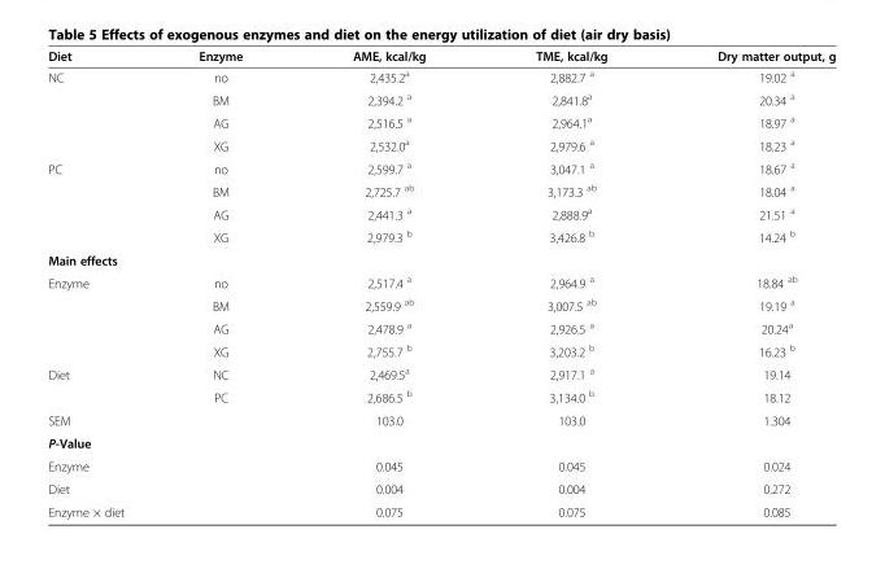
<table><thead><tr><td>Diet</td><td>Enzyme</td><td>AME, kcal/kg</td><td>TME, kcal/kg</td><td>Dry matter output, g</td></tr></thead><tbody><tr><td rowspan="4">NC</td><td>no</td><td>2,435.2<sup>a</sup></td><td>2,882.7 <sup>a</sup></td><td>19.02 <sup>a</sup></td></tr><tr><td>BM</td><td>2,394.2 <sup>a</sup></td><td>2,841.8<sup>a</sup></td><td>20.34 <sup>a</sup></td></tr><tr><td>AG</td><td>2,516.5 <sup>a</sup></td><td>2,964.1<sup>a</sup></td><td>18.97 <sup>a</sup></td></tr><tr><td>XG</td><td>2,532.0<sup>a</sup></td><td>2,979.6 <sup>a</sup></td><td>18.23 <sup>a</sup></td></tr><tr><td rowspan="4">PC</td><td>no</td><td>2,599.7 <sup>a</sup></td><td>3,047.1 <sup>a</sup></td><td>18.67 <sup>a</sup></td></tr><tr><td>BM</td><td>2,725.7 <sup>ab</sup></td><td>3,173.3 <sup>ab</sup></td><td>18.04 <sup>a</sup></td></tr><tr><td>AG</td><td>2,441.3 <sup>a</sup></td><td>2,888.9<sup>a</sup></td><td>21.51 <sup>a</sup></td></tr><tr><td>XG</td><td>2,979.3 <sup>b</sup></td><td>3,426.8 <sup>b</sup></td><td>14.24 <sup>b</sup></td></tr><tr><td colspan="5">Main effects</td></tr><tr><td rowspan="4">Enzyme</td><td>no</td><td>2,517.4 <sup>a</sup></td><td>2,964.9 <sup>a</sup></td><td>18.84 <sup>ab</sup></td></tr><tr><td>BM</td><td>2,559.9 <sup>ab</sup></td><td>3,007.5 <sup>ab</sup></td><td>19.19 <sup>a</sup></td></tr><tr><td>AG</td><td>2,478.9 <sup>a</sup></td><td>2,926.5 <sup>a</sup></td><td>20.24<sup>a</sup></td></tr><tr><td>XG</td><td>2,755.7 <sup>b</sup></td><td>3,203.2 <sup>b</sup></td><td>16.23 <sup>b</sup></td></tr><tr><td rowspan="2">Diet</td><td>NC</td><td>2,469.5<sup>a</sup></td><td>2,917.1 <sup>a</sup></td><td>19.14</td></tr><tr><td>PC</td><td>2,686.5 <sup>b</sup></td><td>3,134.0 <sup>b</sup></td><td>18.12</td></tr><tr><td colspan="2">SEM</td><td>103.0</td><td>103.0</td><td>1.304</td></tr><tr><td colspan="5">P-Value</td></tr><tr><td colspan="2">Enzyme</td><td>0.045</td><td>0.045</td><td>0.024</td></tr><tr><td colspan="2">Diet</td><td>0.004</td><td>0.004</td><td>0.272</td></tr><tr><td colspan="2">Enzyme × diet</td><td>0.075</td><td>0.075</td><td>0.085</td></tr></tbody></table>